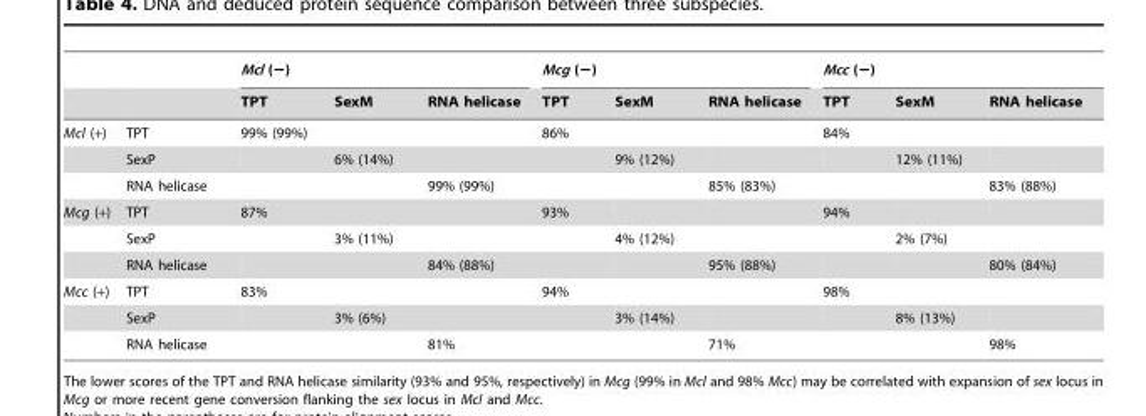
<table><thead><tr><td rowspan="2"></td><td rowspan="2"></td><td colspan="3">Mcl (−)</td><td colspan="3">Mcg (−)</td><td colspan="3">Mcc (−)</td></tr><tr><td>TPT</td><td>SexM</td><td>RNA helicase</td><td>TPT</td><td>SexM</td><td>RNA helicase</td><td>TPT</td><td>SexM</td><td>RNA helicase</td></tr></thead><tbody><tr><td rowspan="3">Mcl (+)</td><td>TPT</td><td>99% (99%)</td><td></td><td></td><td>86%</td><td></td><td></td><td>84%</td><td></td><td></td></tr><tr><td>SexP</td><td></td><td>6% (14%)</td><td></td><td></td><td>9% (12%)</td><td></td><td></td><td>12% (11%)</td><td></td></tr><tr><td>RNA helicase</td><td></td><td></td><td>99% (99%)</td><td></td><td></td><td>85% (83%)</td><td></td><td></td><td>83% (88%)</td></tr><tr><td rowspan="3">Mcg (+)</td><td>TPT</td><td>87%</td><td></td><td></td><td>93%</td><td></td><td></td><td>94%</td><td></td><td></td></tr><tr><td>SexP</td><td></td><td>3% (11%)</td><td></td><td></td><td>4% (12%)</td><td></td><td></td><td>2% (7%)</td><td></td></tr><tr><td>RNA helicase</td><td></td><td></td><td>84% (88%)</td><td></td><td></td><td>95% (88%)</td><td></td><td></td><td>80% (84%)</td></tr><tr><td rowspan="3">Mcc (+)</td><td>TPT</td><td>83%</td><td></td><td></td><td>94%</td><td></td><td></td><td>98%</td><td></td><td></td></tr><tr><td>SexP</td><td></td><td>3% (6%)</td><td></td><td></td><td>3% (14%)</td><td></td><td></td><td>8% (13%)</td><td></td></tr><tr><td>RNA helicase</td><td></td><td></td><td>81%</td><td></td><td></td><td>71%</td><td></td><td></td><td>98%</td></tr></tbody></table>